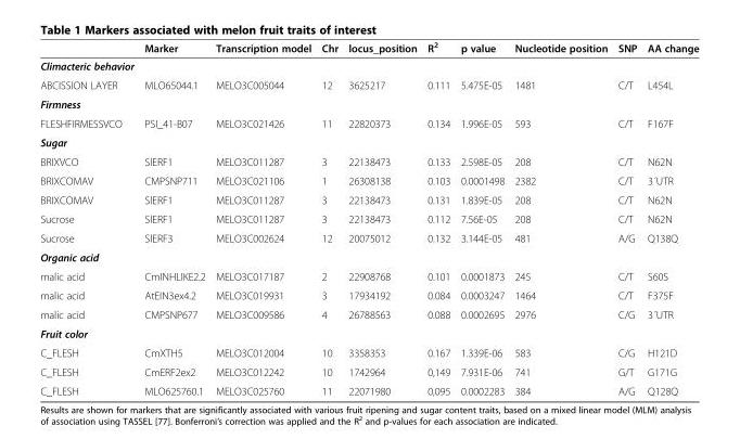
<table><thead><tr><td></td><td>Marker</td><td>Transcription model</td><td>Chr</td><td>locus_position</td><td>R<sup>2</sup></td><td>p value</td><td>Nucleotide position</td><td>SNP</td><td>AA change</td></tr></thead><tbody><tr><td colspan="10">Climacteric behavior</td></tr><tr><td>ABCISSION LAYER</td><td>MLO65044.1</td><td>MELO3C005044</td><td>12</td><td>3625217</td><td>0.111</td><td>5.475E-05</td><td>1481</td><td>C/T</td><td>L454L</td></tr><tr><td colspan="10">Firmness</td></tr><tr><td>FLESHFIRMESSVCO</td><td>PSI_41-B07</td><td>MELO3C021426</td><td>11</td><td>22820373</td><td>0.134</td><td>1.996E-05</td><td>593</td><td>C/T</td><td>F167F</td></tr><tr><td colspan="10">Sugar</td></tr><tr><td>BRIXVCO</td><td>SlERF1</td><td>MELO3C011287</td><td>3</td><td>22138473</td><td>0.133</td><td>2.598E-05</td><td>208</td><td>C/T</td><td>N62N</td></tr><tr><td>BRIXCOMAV</td><td>CMPSNP711</td><td>MELO3C021106</td><td>1</td><td>26308138</td><td>0.103</td><td>0.0001498</td><td>2382</td><td>C/T</td><td>3´UTR</td></tr><tr><td>BRIXCOMAV</td><td>SlERF1</td><td>MELO3C011287</td><td>3</td><td>22138473</td><td>0.131</td><td>1.839E-05</td><td>208</td><td>C/T</td><td>N62N</td></tr><tr><td>Sucrose</td><td>SlERF1</td><td>MELO3C011287</td><td>3</td><td>22138473</td><td>0.112</td><td>7.56E-05</td><td>208</td><td>C/T</td><td>N62N</td></tr><tr><td>Sucrose</td><td>SlERF3</td><td>MELO3C002624</td><td>12</td><td>20075012</td><td>0.132</td><td>3.144E-05</td><td>481</td><td>A/G</td><td>Q138Q</td></tr><tr><td colspan="10">Organic acid</td></tr><tr><td>malic acid</td><td>CmINHLIKE2.2</td><td>MELO3C017187</td><td>2</td><td>22908768</td><td>0.101</td><td>0.0001873</td><td>245</td><td>C/T</td><td>S60S</td></tr><tr><td>malic acid</td><td>AtEIN3ex4.2</td><td>MELO3C019931</td><td>3</td><td>17934192</td><td>0.084</td><td>0.0003247</td><td>1464</td><td>C/T</td><td>F375F</td></tr><tr><td>malic acid</td><td>CMPSNP677</td><td>MELO3C009586</td><td>4</td><td>26788563</td><td>0.088</td><td>0.0002695</td><td>2976</td><td>C/G</td><td>3´UTR</td></tr><tr><td colspan="10">Fruit color</td></tr><tr><td>C_FLESH</td><td>CmXTH5</td><td>MELO3C012004</td><td>10</td><td>3358353</td><td>0.167</td><td>1.339E-06</td><td>583</td><td>C/G</td><td>H121D</td></tr><tr><td>C_FLESH</td><td>CmERF2ex2</td><td>MELO3C012242</td><td>10</td><td>1742964</td><td>0,149</td><td>7.931E-06</td><td>741</td><td>G/T</td><td>G171G</td></tr><tr><td>C_FLESH</td><td>MLO625760.1</td><td>MELO3C025760</td><td>11</td><td>22071980</td><td>0,095</td><td>0.0002283</td><td>384</td><td>A/G</td><td>Q128Q</td></tr></tbody></table>